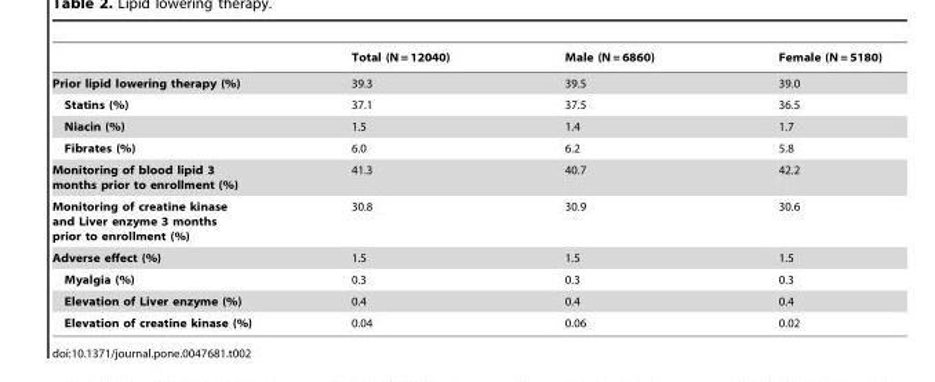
<table><thead><tr><td></td><td>Total (N = 12040)</td><td>Male (N = 6860)</td><td>Female (N = 5180)</td></tr></thead><tbody><tr><td>Prior lipid lowering therapy (%)</td><td>39.3</td><td>39.5</td><td>39.0</td></tr><tr><td>Statins (%)</td><td>37.1</td><td>37.5</td><td>36.5</td></tr><tr><td>Niacin (%)</td><td>1.5</td><td>1.4</td><td>1.7</td></tr><tr><td>Fibrates (%)</td><td>6.0</td><td>6.2</td><td>5.8</td></tr><tr><td>Monitoring of blood lipid 3 months prior to enrollment (%)</td><td>41.3</td><td>40.7</td><td>42.2</td></tr><tr><td>Monitoring of creatine kinase and Liver enzyme 3 months prior to enrollment (%)</td><td>30.8</td><td>30.9</td><td>30.6</td></tr><tr><td>Adverse effect (%)</td><td>1.5</td><td>1.5</td><td>1.5</td></tr><tr><td>Myalgia (%)</td><td>0.3</td><td>0.3</td><td>0.3</td></tr><tr><td>Elevation of Liver enzyme (%)</td><td>0.4</td><td>0.4</td><td>0.4</td></tr><tr><td>Elevation of creatine kinase (%)</td><td>0.04</td><td>0.06</td><td>0.02</td></tr></tbody></table>